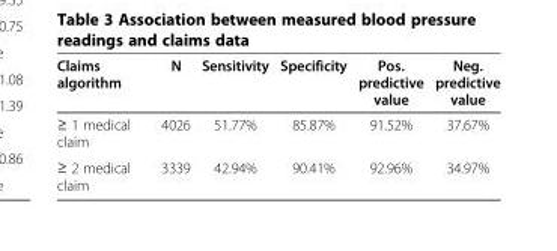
<table><thead><tr><td>Claims algorithm</td><td>N</td><td>Sensitivity</td><td>Specificity</td><td>Pos. predictive value</td><td>Neg. predictive value</td></tr></thead><tbody><tr><td>≥ 1 medical claim</td><td>4026</td><td>51.77%</td><td>85.87%</td><td>91.52%</td><td>37.67%</td></tr><tr><td>≥ 2 medical claim</td><td>3339</td><td>42.94%</td><td>90.41%</td><td>92.96%</td><td>34.97%</td></tr></tbody></table>